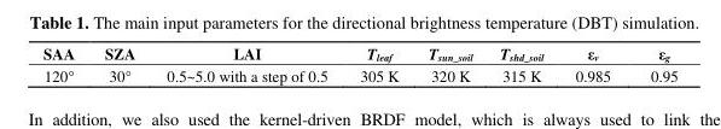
<table><thead><tr><td>SAA</td><td>SZA</td><td>LAI</td><td>T<sub>leaf</sub></td><td>T<sub>sun_soil</sub></td><td>T<sub>shd_soil</sub></td><td>ε<sub>v</sub></td><td>ε<sub>g</sub></td></tr></thead><tbody><tr><td>120°</td><td>30°</td><td>0.5~5.0 with a step of 0.5</td><td>305 K</td><td>320 K</td><td>315 K</td><td>0.985</td><td>0.95</td></tr></tbody></table>